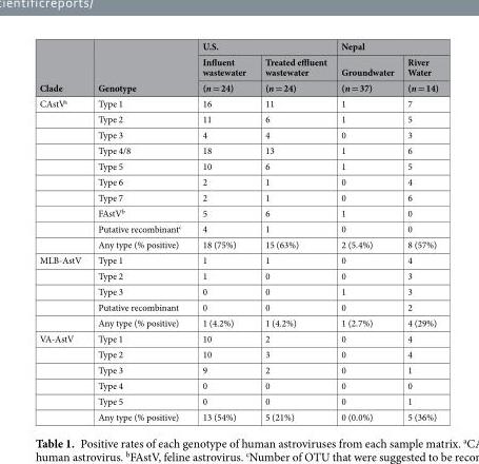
<table><thead><tr><td rowspan="3">Clade</td><td rowspan="3">Genotype</td><td colspan="2">U.S.</td><td colspan="2">Nepal</td></tr><tr><td rowspan="2">Influent wastewater (n = 24)</td><td rowspan="2">Treated effluent wastewater (n = 24)</td><td rowspan="2">Groundwater (n = 37)</td><td rowspan="2">River Water (n = 14)</td></tr><tr></tr></thead><tbody><tr><td rowspan="10">CAstV<sup>a</sup></td><td>Type 1</td><td>16</td><td>11</td><td>1</td><td>7</td></tr><tr><td>Type 2</td><td>11</td><td>6</td><td>1</td><td>5</td></tr><tr><td>Type 3</td><td>4</td><td>4</td><td>0</td><td>3</td></tr><tr><td>Type 4/8</td><td>18</td><td>13</td><td>1</td><td>6</td></tr><tr><td>Type 5</td><td>10</td><td>6</td><td>1</td><td>5</td></tr><tr><td>Type 6</td><td>2</td><td>1</td><td>0</td><td>4</td></tr><tr><td>Type 7</td><td>2</td><td>1</td><td>0</td><td>6</td></tr><tr><td>FAstV<sup>b</sup></td><td>5</td><td>6</td><td>1</td><td>0</td></tr><tr><td>Putative recombinant<sup>c</sup></td><td>4</td><td>1</td><td>0</td><td>0</td></tr><tr><td>Any type (% positive)</td><td>18 (75%)</td><td>15 (63%)</td><td>2 (5.4%)</td><td>8 (57%)</td></tr><tr><td rowspan="5">MLB-AstV</td><td>Type 1</td><td>1</td><td>1</td><td>0</td><td>4</td></tr><tr><td>Type 2</td><td>1</td><td>0</td><td>0</td><td>3</td></tr><tr><td>Type 3</td><td>0</td><td>0</td><td>1</td><td>3</td></tr><tr><td>Putative recombinant</td><td>0</td><td>0</td><td>0</td><td>2</td></tr><tr><td>Any type (% positive)</td><td>1 (4.2%)</td><td>1 (4.2%)</td><td>1 (2.7%)</td><td>4 (29%)</td></tr><tr><td rowspan="6">VA-AstV</td><td>Type 1</td><td>10</td><td>2</td><td>0</td><td>4</td></tr><tr><td>Type 2</td><td>10</td><td>3</td><td>0</td><td>4</td></tr><tr><td>Type 3</td><td>9</td><td>2</td><td>0</td><td>1</td></tr><tr><td>Type 4</td><td>0</td><td>0</td><td>0</td><td>0</td></tr><tr><td>Type 5</td><td>0</td><td>0</td><td>0</td><td>1</td></tr><tr><td>Any type (% positive)</td><td>13 (54%)</td><td>5 (21%)</td><td>0 (0.0%)</td><td>5 (36%)</td></tr></tbody></table>